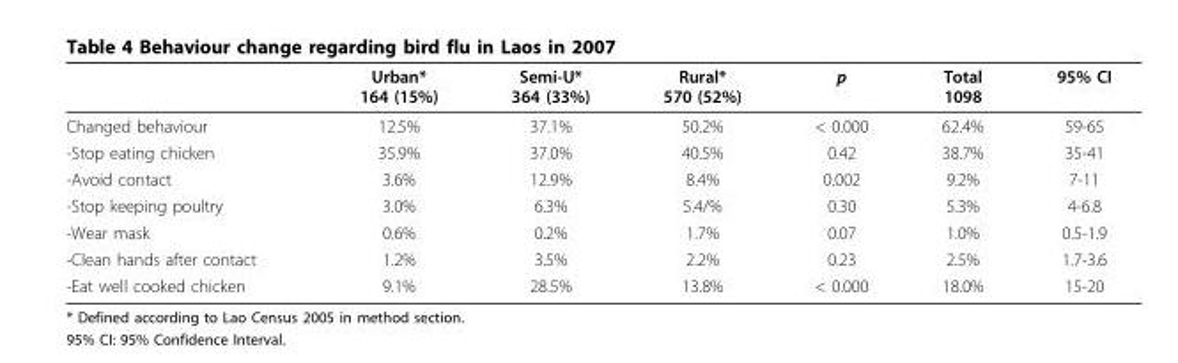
<table><thead><tr><td></td><td>Urban* 164 (15%)</td><td>Semi-U* 364 (33%)</td><td>Rural* 570 (52%)</td><td>p</td><td>Total 1098</td><td>95% CI</td></tr></thead><tbody><tr><td>Changed behaviour</td><td>12.5%</td><td>37.1%</td><td>50.2%</td><td>&lt; 0.000</td><td>62.4%</td><td>59-65</td></tr><tr><td>-Stop eating chicken</td><td>35.9%</td><td>37.0%</td><td>40.5%</td><td>0.42</td><td>38.7%</td><td>35-41</td></tr><tr><td>-Avoid contact</td><td>3.6%</td><td>12.9%</td><td>8.4%</td><td>0.002</td><td>9.2%</td><td>7-11</td></tr><tr><td>-Stop keeping poultry</td><td>3.0%</td><td>6.3%</td><td>5.4/%</td><td>0.30</td><td>5.3%</td><td>4-6.8</td></tr><tr><td>-Wear mask</td><td>0.6%</td><td>0.2%</td><td>1.7%</td><td>0.07</td><td>1.0%</td><td>0.5-1.9</td></tr><tr><td>-Clean hands after contact</td><td>1.2%</td><td>3.5%</td><td>2.2%</td><td>0.23</td><td>2.5%</td><td>1.7-3.6</td></tr><tr><td>-Eat well cooked chicken</td><td>9.1%</td><td>28.5%</td><td>13.8%</td><td>&lt; 0.000</td><td>18.0%</td><td>15-20</td></tr></tbody></table>